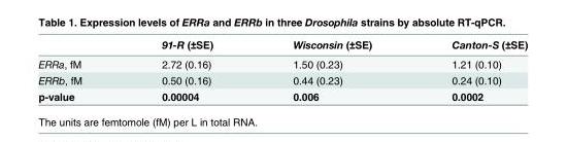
<table><thead><tr><td></td><td>91-R (±SE)</td><td>Wisconsin (±SE)</td><td>Canton-S (±SE)</td></tr></thead><tbody><tr><td>ERRa, fM</td><td>2.72 (0.16)</td><td>1.50 (0.23)</td><td>1.21 (0.10)</td></tr><tr><td>ERRb, fM</td><td>0.50 (0.16)</td><td>0.44 (0.23)</td><td>0.24 (0.10)</td></tr><tr><td>p-value</td><td>0.00004</td><td>0.006</td><td>0.0002</td></tr></tbody></table>